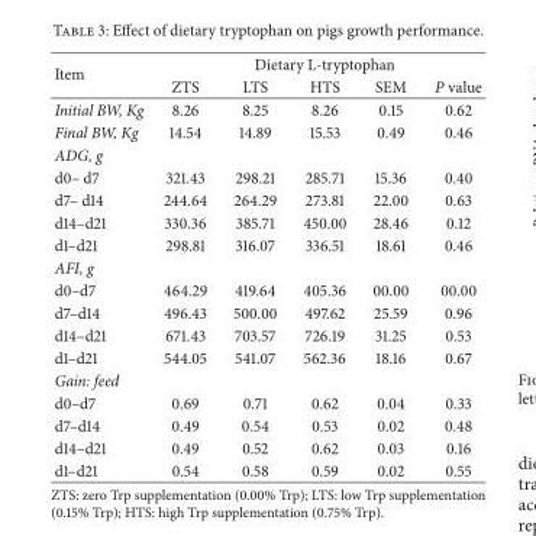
<table><thead><tr><td rowspan="2">Item</td><td colspan="5">Dietary L-tryptophan</td></tr><tr><td>ZTS</td><td>LTS</td><td>HTS</td><td>SEM</td><td>P value</td></tr></thead><tbody><tr><td>Initial BW, Kg</td><td>8.26</td><td>8.25</td><td>8.26</td><td>0.15</td><td>0.62</td></tr><tr><td>Final BW, Kg</td><td>14.54</td><td>14.89</td><td>15.53</td><td>0.49</td><td>0.46</td></tr><tr><td colspan="6">ADG, g</td></tr><tr><td>d0– d7</td><td>321.43</td><td>298.21</td><td>285.71</td><td>15.36</td><td>0.40</td></tr><tr><td>d7– d14</td><td>244.64</td><td>264.29</td><td>273.81</td><td>22.00</td><td>0.63</td></tr><tr><td>d14–d21</td><td>330.36</td><td>385.71</td><td>450.00</td><td>28.46</td><td>0.12</td></tr><tr><td>d1–d21</td><td>298.81</td><td>316.07</td><td>336.51</td><td>18.61</td><td>0.46</td></tr><tr><td colspan="6">AFI, g</td></tr><tr><td>d0–d7</td><td>464.29</td><td>419.64</td><td>405.36</td><td>00.00</td><td>00.00</td></tr><tr><td>d7–d14</td><td>496.43</td><td>500.00</td><td>497.62</td><td>25.59</td><td>0.96</td></tr><tr><td>d14–d21</td><td>671.43</td><td>703.57</td><td>726.19</td><td>31.25</td><td>0.53</td></tr><tr><td>d1–d21</td><td>544.05</td><td>541.07</td><td>562.36</td><td>18.16</td><td>0.67</td></tr><tr><td colspan="6">Gain: feed</td></tr><tr><td>d0–d7</td><td>0.69</td><td>0.71</td><td>0.62</td><td>0.04</td><td>0.33</td></tr><tr><td>d7–d14</td><td>0.49</td><td>0.54</td><td>0.53</td><td>0.02</td><td>0.48</td></tr><tr><td>d14–d21</td><td>0.49</td><td>0.52</td><td>0.62</td><td>0.03</td><td>0.16</td></tr><tr><td>d1–d21</td><td>0.54</td><td>0.58</td><td>0.59</td><td>0.02</td><td>0.55</td></tr></tbody></table>